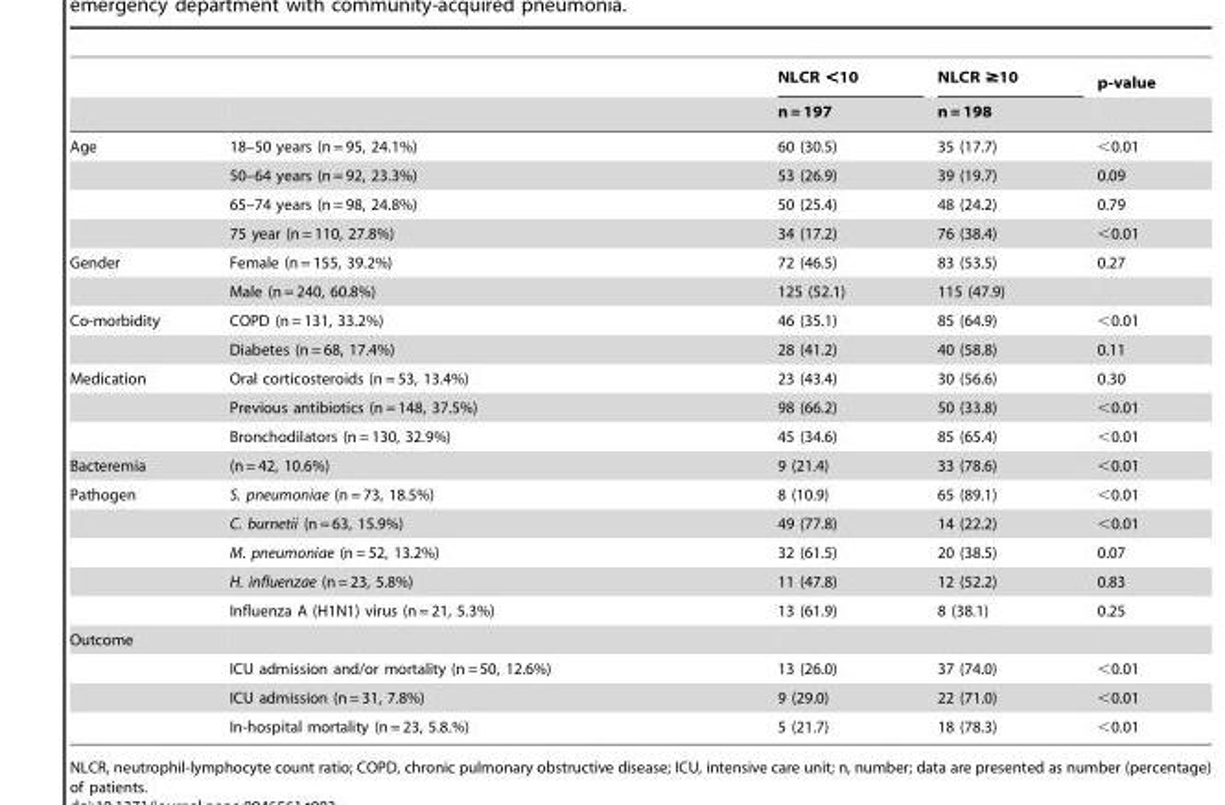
<table><thead><tr><td rowspan="2"></td><td rowspan="2"></td><td rowspan="2">NLCR &lt;10 n = 197</td><td rowspan="2">NLCR ≥10 n = 198</td><td rowspan="2">p-value</td></tr><tr></tr></thead><tbody><tr><td rowspan="4">Age</td><td>18–50 years (n = 95, 24.1%)</td><td>60 (30.5)</td><td>35 (17.7)</td><td>&lt;0.01</td></tr><tr><td>50–64 years (n = 92, 23.3%)</td><td>53 (26.9)</td><td>39 (19.7)</td><td>0.09</td></tr><tr><td>65–74 years (n = 98, 24.8%)</td><td>50 (25.4)</td><td>48 (24.2)</td><td>0.79</td></tr><tr><td>75 year (n = 110, 27.8%)</td><td>34 (17.2)</td><td>76 (38.4)</td><td>&lt;0.01</td></tr><tr><td rowspan="2">Gender</td><td>Female (n = 155, 39.2%)</td><td>72 (46.5)</td><td>83 (53.5)</td><td>0.27</td></tr><tr><td>Male (n = 240, 60.8%)</td><td>125 (52.1)</td><td>115 (47.9)</td><td></td></tr><tr><td rowspan="2">Co-morbidity</td><td>COPD (n = 131, 33.2%)</td><td>46 (35.1)</td><td>85 (64.9)</td><td>&lt;0.01</td></tr><tr><td>Diabetes (n = 68, 17.4%)</td><td>28 (41.2)</td><td>40 (58.8)</td><td>0.11</td></tr><tr><td rowspan="3">Medication</td><td>Oral corticosteroids (n = 53, 13.4%)</td><td>23 (43.4)</td><td>30 (56.6)</td><td>0.30</td></tr><tr><td>Previous antibiotics (n = 148, 37.5%)</td><td>98 (66.2)</td><td>50 (33.8)</td><td>&lt;0.01</td></tr><tr><td>Bronchodilators (n = 130, 32.9%)</td><td>45 (34.6)</td><td>85 (65.4)</td><td>&lt;0.01</td></tr><tr><td>Bacteremia</td><td>(n = 42, 10.6%)</td><td>9 (21.4)</td><td>33 (78.6)</td><td>&lt;0.01</td></tr><tr><td rowspan="5">Pathogen</td><td>S. pneumoniae (n = 73, 18.5%)</td><td>8 (10.9)</td><td>65 (89.1)</td><td>&lt;0.01</td></tr><tr><td>C. burnetii (n = 63, 15.9%)</td><td>49 (77.8)</td><td>14 (22.2)</td><td>&lt;0.01</td></tr><tr><td>M. pneumoniae (n = 52, 13.2%)</td><td>32 (61.5)</td><td>20 (38.5)</td><td>0.07</td></tr><tr><td>H. influenzae (n = 23, 5.8%)</td><td>11 (47.8)</td><td>12 (52.2)</td><td>0.83</td></tr><tr><td>Influenza A (H1N1) virus (n = 21, 5.3%)</td><td>13 (61.9)</td><td>8 (38.1)</td><td>0.25</td></tr><tr><td colspan="5">Outcome</td></tr><tr><td></td><td>ICU admission and/or mortality (n = 50, 12.6%)</td><td>13 (26.0)</td><td>37 (74.0)</td><td>&lt;0.01</td></tr><tr><td></td><td>ICU admission (n = 31, 7.8%)</td><td>9 (29.0)</td><td>22 (71.0)</td><td>&lt;0.01</td></tr><tr><td></td><td>In-hospital mortality (n = 23, 5.8.%)</td><td>5 (21.7)</td><td>18 (78.3)</td><td>&lt;0.01</td></tr></tbody></table>